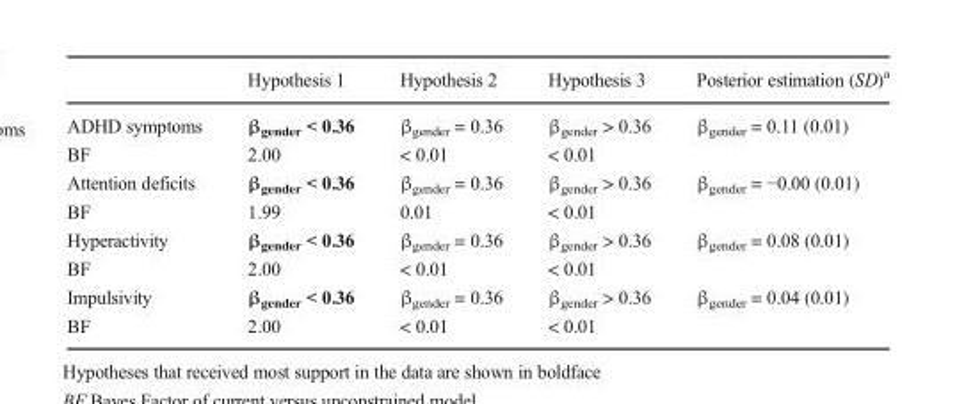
<table><thead><tr><td></td><td>Hypothesis 1</td><td>Hypothesis 2</td><td>Hypothesis 3</td><td>Posterior estimation (SD)<sup>a</sup></td></tr></thead><tbody><tr><td>ADHD symptoms</td><td>β<sub>gender</sub> &lt; 0.36</td><td>β<sub>gender</sub> = 0.36</td><td>β<sub>gender</sub> &gt; 0.36</td><td>β<sub>gender</sub> = 0.11 (0.01)</td></tr><tr><td>BF</td><td>2.00</td><td>&lt; 0.01</td><td>&lt; 0.01</td><td></td></tr><tr><td>Attention deficits</td><td>β<sub>gender</sub> &lt; 0.36</td><td>β<sub>gender</sub> = 0.36</td><td>β<sub>gender</sub> &gt; 0.36</td><td>β<sub>gender</sub> = −0.00 (0.01)</td></tr><tr><td>BF</td><td>1.99</td><td>0.01</td><td>&lt; 0.01</td><td></td></tr><tr><td>Hyperactivity</td><td>β<sub>gender</sub> &lt; 0.36</td><td>β<sub>gender</sub> = 0.36</td><td>β<sub>gender</sub> &gt; 0.36</td><td>β<sub>gender</sub> = 0.08 (0.01)</td></tr><tr><td>BF</td><td>2.00</td><td>&lt; 0.01</td><td>&lt; 0.01</td><td></td></tr><tr><td>Impulsivity</td><td>β<sub>gender</sub> &lt; 0.36</td><td>β<sub>gender</sub> = 0.36</td><td>β<sub>gender</sub> &gt; 0.36</td><td>β<sub>gender</sub> = 0.04 (0.01)</td></tr><tr><td>BF</td><td>2.00</td><td>&lt; 0.01</td><td>&lt; 0.01</td><td></td></tr></tbody></table>